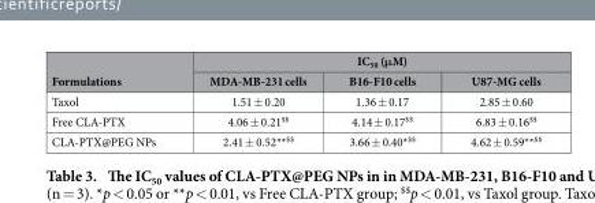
<table><thead><tr><td rowspan="2">Formulations</td><td colspan="3">IC<sub>50</sub> (μM)</td></tr><tr><td>MDA-MB-231 cells</td><td>B16-F10 cells</td><td>U87-MG cells</td></tr></thead><tbody><tr><td>Taxol</td><td>1.51 ± 0.20</td><td>1.36 ± 0.17</td><td>2.85 ± 0.60</td></tr><tr><td>Free CLA-PTX</td><td>4.06 ± 0.21<sup>$$</sup></td><td>4.14 ± 0.17<sup>$$</sup></td><td>6.83 ± 0.16<sup>$$</sup></td></tr><tr><td>CLA-PTX@PEG NPs</td><td>2.41 ± 0.52**<sup>$$</sup></td><td>3.66 ± 0.40*<sup>$$</sup></td><td>4.62 ± 0.59**<sup>$$</sup></td></tr></tbody></table>